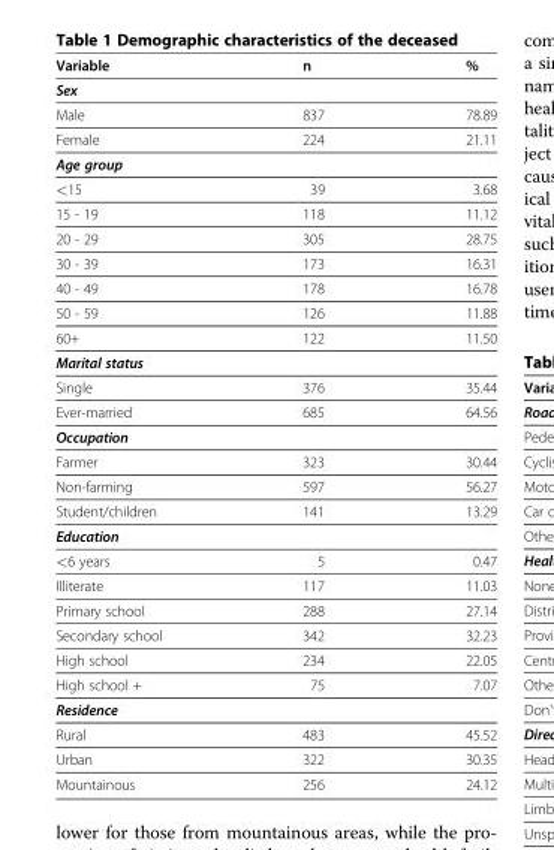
<table><thead><tr><td>Variable</td><td>n</td><td>%</td></tr></thead><tbody><tr><td colspan="3">Sex</td></tr><tr><td>Male</td><td>837</td><td>78.89</td></tr><tr><td>Female</td><td>224</td><td>21.11</td></tr><tr><td colspan="3">Age group</td></tr><tr><td>&lt;15</td><td>39</td><td>3.68</td></tr><tr><td>15 - 19</td><td>118</td><td>11.12</td></tr><tr><td>20 - 29</td><td>305</td><td>28.75</td></tr><tr><td>30 - 39</td><td>173</td><td>16.31</td></tr><tr><td>40 - 49</td><td>178</td><td>16.78</td></tr><tr><td>50 - 59</td><td>126</td><td>11.88</td></tr><tr><td>60+</td><td>122</td><td>11.50</td></tr><tr><td colspan="3">Marital status</td></tr><tr><td>Single</td><td>376</td><td>35.44</td></tr><tr><td>Ever-married</td><td>685</td><td>64.56</td></tr><tr><td colspan="3">Occupation</td></tr><tr><td>Farmer</td><td>323</td><td>30.44</td></tr><tr><td>Non-farming</td><td>597</td><td>56.27</td></tr><tr><td>Student/children</td><td>141</td><td>13.29</td></tr><tr><td colspan="3">Education</td></tr><tr><td>&lt;6 years</td><td>5</td><td>0.47</td></tr><tr><td>Illiterate</td><td>117</td><td>11.03</td></tr><tr><td>Primary school</td><td>288</td><td>27.14</td></tr><tr><td>Secondary school</td><td>342</td><td>32.23</td></tr><tr><td>High school</td><td>234</td><td>22.05</td></tr><tr><td>High school +</td><td>75</td><td>7.07</td></tr><tr><td colspan="3">Residence</td></tr><tr><td>Rural</td><td>483</td><td>45.52</td></tr><tr><td>Urban</td><td>322</td><td>30.35</td></tr><tr><td>Mountainous</td><td>256</td><td>24.12</td></tr></tbody></table>